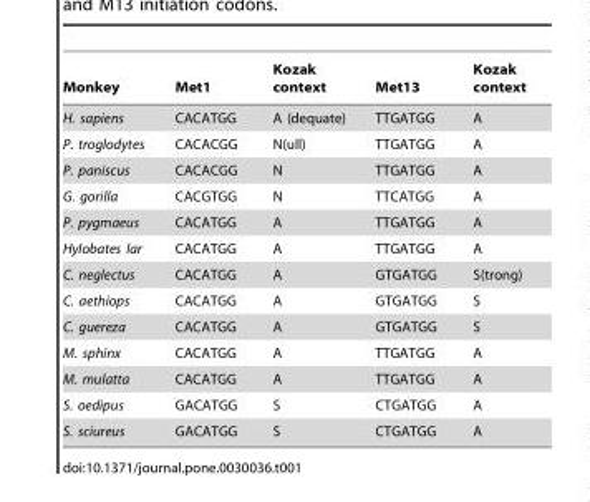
<table><thead><tr><td>Monkey</td><td>Met1</td><td>Kozak context</td><td>Met13</td><td>Kozak context</td></tr></thead><tbody><tr><td>H. sapiens</td><td>CACATGG</td><td>A (dequate)</td><td>TTGATGG</td><td>A</td></tr><tr><td>P. troglodytes</td><td>CACACGG</td><td>N(ull)</td><td>TTGATGG</td><td>A</td></tr><tr><td>P. paniscus</td><td>CACACGG</td><td>N</td><td>TTGATGG</td><td>A</td></tr><tr><td>G. gorilla</td><td>CACGTGG</td><td>N</td><td>TTCATGG</td><td>A</td></tr><tr><td>P. pygmaeus</td><td>CACATGG</td><td>A</td><td>TTGATGG</td><td>A</td></tr><tr><td>Hylobates lar</td><td>CACATGG</td><td>A</td><td>TTGATGG</td><td>A</td></tr><tr><td>C. neglectus</td><td>CACATGG</td><td>A</td><td>GTGATGG</td><td>S(trong)</td></tr><tr><td>C. aethiops</td><td>CACATGG</td><td>A</td><td>GTGATGG</td><td>S</td></tr><tr><td>C. guereza</td><td>CACATGG</td><td>A</td><td>GTGATGG</td><td>S</td></tr><tr><td>M. sphinx</td><td>CACATGG</td><td>A</td><td>TTGATGG</td><td>A</td></tr><tr><td>M. mulatta</td><td>CACATGG</td><td>A</td><td>TTGATGG</td><td>A</td></tr><tr><td>S. oedipus</td><td>GACATGG</td><td>S</td><td>CTGATGG</td><td>A</td></tr><tr><td>S. sciureus</td><td>GACATGG</td><td>S</td><td>CTGATGG</td><td>A</td></tr></tbody></table>